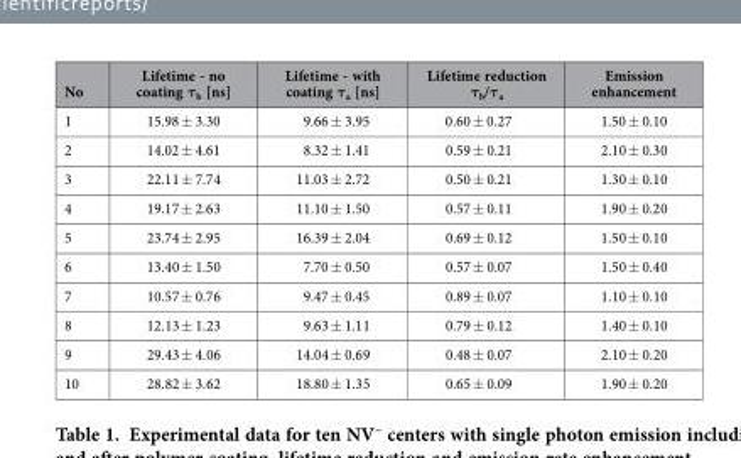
<table><thead><tr><td>No</td><td>Lifetime - no coating τ<sub>b</sub> [ns]</td><td>Lifetime - with coating τ<sub>a</sub> [ns]</td><td>Lifetime reduction τ<sub>b</sub>/τ<sub>a</sub></td><td>Emission enhancement</td></tr></thead><tbody><tr><td>1</td><td>15.98 ± 3.30</td><td>9.66 ± 3.95</td><td>0.60 ± 0.27</td><td>1.50 ± 0.10</td></tr><tr><td>2</td><td>14.02 ± 4.61</td><td>8.32 ± 1.41</td><td>0.59 ± 0.21</td><td>2.10 ± 0.30</td></tr><tr><td>3</td><td>22.11 ± 7.74</td><td>11.03 ± 2.72</td><td>0.50 ± 0.21</td><td>1.30 ± 0.10</td></tr><tr><td>4</td><td>19.17 ± 2.63</td><td>11.10 ± 1.50</td><td>0.57 ± 0.11</td><td>1.90 ± 0.20</td></tr><tr><td>5</td><td>23.74 ± 2.95</td><td>16.39 ± 2.04</td><td>0.69 ± 0.12</td><td>1.50 ± 0.10</td></tr><tr><td>6</td><td>13.40 ± 1.50</td><td>7.70 ± 0.50</td><td>0.57 ± 0.07</td><td>1.50 ± 0.40</td></tr><tr><td>7</td><td>10.57 ± 0.76</td><td>9.47 ± 0.45</td><td>0.89 ± 0.07</td><td>1.10 ± 0.10</td></tr><tr><td>8</td><td>12.13 ± 1.23</td><td>9.63 ± 1.11</td><td>0.79 ± 0.12</td><td>1.40 ± 0.10</td></tr><tr><td>9</td><td>29.43 ± 4.06</td><td>14.04 ± 0.69</td><td>0.48 ± 0.07</td><td>2.10 ± 0.20</td></tr><tr><td>10</td><td>28.82 ± 3.62</td><td>18.80 ± 1.35</td><td>0.65 ± 0.09</td><td>1.90 ± 0.20</td></tr></tbody></table>